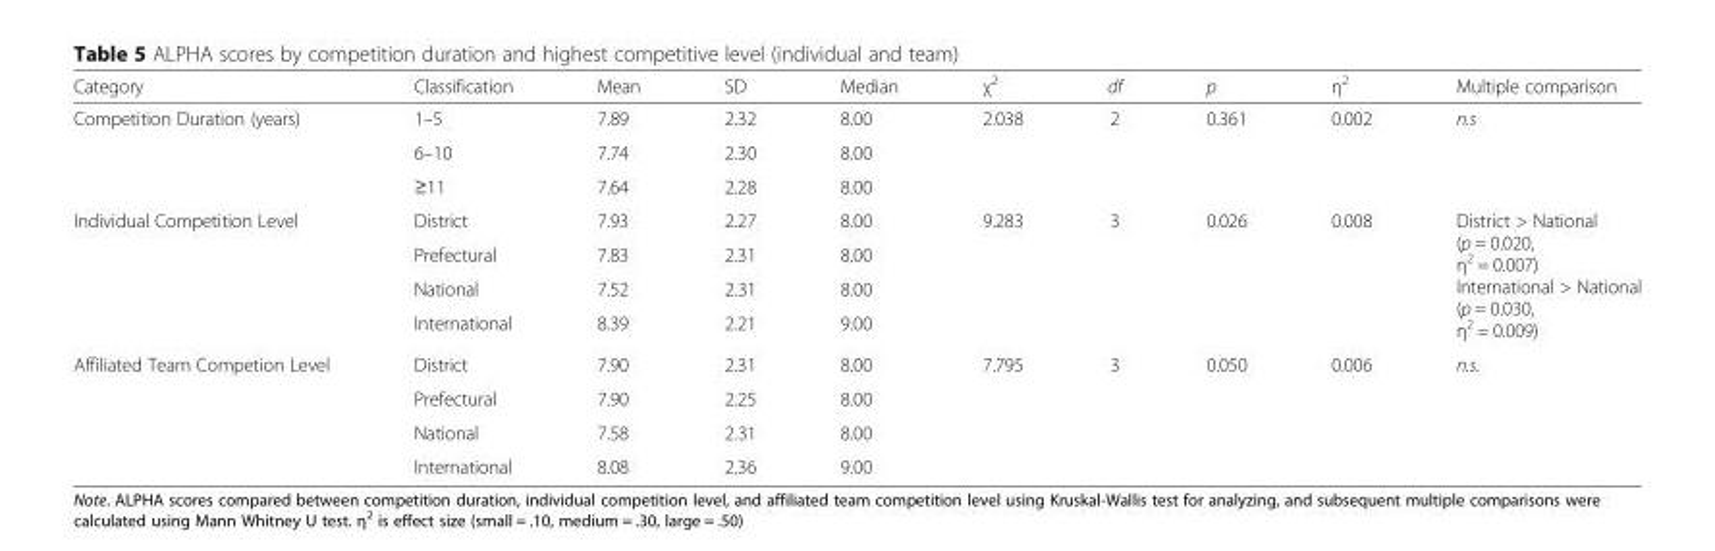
<table><thead><tr><td>Category</td><td>Classification</td><td>Mean</td><td>SD</td><td>Median</td><td>χ<sup>2</sup></td><td>df</td><td>p</td><td>η<sup>2</sup></td><td>Multiple comparison</td></tr></thead><tbody><tr><td rowspan="3">Competition Duration (years)</td><td>1–5</td><td>7.89</td><td>2.32</td><td>8.00</td><td rowspan="3">2.038</td><td rowspan="3">2</td><td rowspan="3">0.361</td><td rowspan="3">0.002</td><td rowspan="3">n.s</td></tr><tr><td>6–10</td><td>7.74</td><td>2.30</td><td>8.00</td></tr><tr><td>≥11</td><td>7.64</td><td>2.28</td><td>8.00</td></tr><tr><td rowspan="4">Individual Competition Level</td><td>District</td><td>7.93</td><td>2.27</td><td>8.00</td><td rowspan="4">9.283</td><td rowspan="4">3</td><td rowspan="4">0.026</td><td rowspan="4">0.008</td><td rowspan="4">District &gt; National (p = 0.020, η<sup>2</sup> = 0.007) International &gt; National (p = 0.030, η<sup>2</sup> = 0.009)</td></tr><tr><td>Prefectural</td><td>7.83</td><td>2.31</td><td>8.00</td></tr><tr><td>National</td><td>7.52</td><td>2.31</td><td>8.00</td></tr><tr><td>International</td><td>8.39</td><td>2.21</td><td>9.00</td></tr><tr><td rowspan="4">Affiliated Team Competion Level</td><td>District</td><td>7.90</td><td>2.31</td><td>8.00</td><td rowspan="4">7.795</td><td rowspan="4">3</td><td rowspan="4">0.050</td><td rowspan="4">0.006</td><td rowspan="4">n.s.</td></tr><tr><td>Prefectural</td><td>7.90</td><td>2.25</td><td>8.00</td></tr><tr><td>National</td><td>7.58</td><td>2.31</td><td>8.00</td></tr><tr><td>International</td><td>8.08</td><td>2.36</td><td>9.00</td></tr></tbody></table>